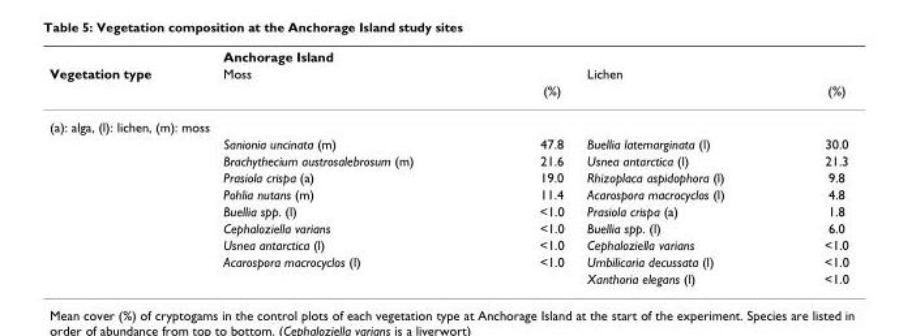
<table><thead><tr><td rowspan="3">Vegetation type</td><td rowspan="3">Anchorage Island Moss</td><td rowspan="3">(%)</td><td rowspan="3">Lichen</td><td rowspan="3">(%)</td></tr><tr></tr><tr></tr></thead><tbody><tr><td colspan="5">(a): alga, (l): lichen, (m): moss</td></tr><tr><td></td><td>Sanionia uncinata (m)</td><td>47.8</td><td>Buellia latemarginata (l)</td><td>30.0</td></tr><tr><td></td><td>Brachythecium austrosalebrosum (m)</td><td>21.6</td><td>Usnea antarctica (l)</td><td>21.3</td></tr><tr><td></td><td>Prasiola crispa (a)</td><td>19.0</td><td>Rhizoplaca aspidophora (l)</td><td>9.8</td></tr><tr><td></td><td>Pohlia nutans (m)</td><td>11.4</td><td>Acarospora macrocyclos (l)</td><td>4.8</td></tr><tr><td></td><td>Buellia spp. (l)</td><td>&lt;1.0</td><td>Prasiola crispa (a)</td><td>1.8</td></tr><tr><td></td><td>Cephaloziella varians</td><td>&lt;1.0</td><td>Buellia spp. (l)</td><td>6.0</td></tr><tr><td></td><td>Usnea antarctica (l)</td><td>&lt;1.0</td><td>Cephaloziella varians</td><td>&lt;1.0</td></tr><tr><td></td><td>Acarospora macrocyclos (l)</td><td>&lt;1.0</td><td>Umbilicaria decussata (l)</td><td>&lt;1.0</td></tr><tr><td></td><td></td><td></td><td>Xanthoria elegans (l)</td><td>&lt;1.0</td></tr></tbody></table>